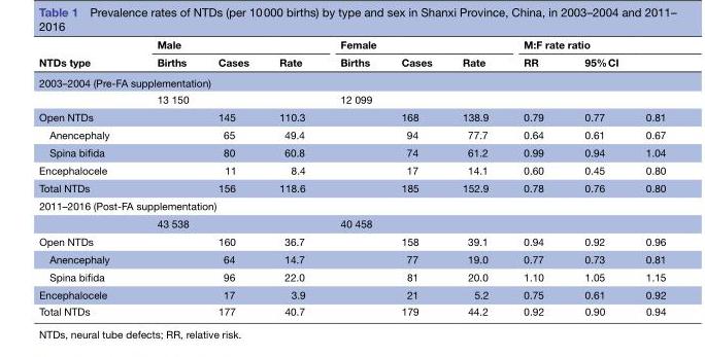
<table><thead><tr><td rowspan="2">NTDs type</td><td colspan="3">Male</td><td colspan="3">Female</td><td colspan="3">M:F rate ratio</td></tr><tr><td>Births</td><td>Cases</td><td>Rate</td><td>Births</td><td>Cases</td><td>Rate</td><td>RR</td><td colspan="2">95% CI</td></tr><tr><td colspan="10">2003–2004 (Pre-FA supplementation)</td></tr><tr><td></td><td>13 150</td><td></td><td></td><td>12 099</td><td></td><td></td><td></td><td></td><td></td></tr></thead><tbody><tr><td>Open NTDs</td><td></td><td>145</td><td>110.3</td><td></td><td>168</td><td>138.9</td><td>0.79</td><td>0.77</td><td>0.81</td></tr><tr><td>Anencephaly</td><td></td><td>65</td><td>49.4</td><td></td><td>94</td><td>77.7</td><td>0.64</td><td>0.61</td><td>0.67</td></tr><tr><td>Spina bifida</td><td></td><td>80</td><td>60.8</td><td></td><td>74</td><td>61.2</td><td>0.99</td><td>0.94</td><td>1.04</td></tr><tr><td>Encephalocele</td><td></td><td>11</td><td>8.4</td><td></td><td>17</td><td>14.1</td><td>0.60</td><td>0.45</td><td>0.80</td></tr><tr><td>Total NTDs</td><td></td><td>156</td><td>118.6</td><td></td><td>185</td><td>152.9</td><td>0.78</td><td>0.76</td><td>0.80</td></tr><tr><td colspan="10">2011–2016 (Post-FA supplementation)</td></tr><tr><td></td><td>43 538</td><td></td><td></td><td>40 458</td><td></td><td></td><td></td><td></td><td></td></tr><tr><td>Open NTDs</td><td></td><td>160</td><td>36.7</td><td></td><td>158</td><td>39.1</td><td>0.94</td><td>0.92</td><td>0.96</td></tr><tr><td>Anencephaly</td><td></td><td>64</td><td>14.7</td><td></td><td>77</td><td>19.0</td><td>0.77</td><td>0.73</td><td>0.81</td></tr><tr><td>Spina bifida</td><td></td><td>96</td><td>22.0</td><td></td><td>81</td><td>20.0</td><td>1.10</td><td>1.05</td><td>1.15</td></tr><tr><td>Encephalocele</td><td></td><td>17</td><td>3.9</td><td></td><td>21</td><td>5.2</td><td>0.75</td><td>0.61</td><td>0.92</td></tr><tr><td>Total NTDs</td><td></td><td>177</td><td>40.7</td><td></td><td>179</td><td>44.2</td><td>0.92</td><td>0.90</td><td>0.94</td></tr></tbody></table>